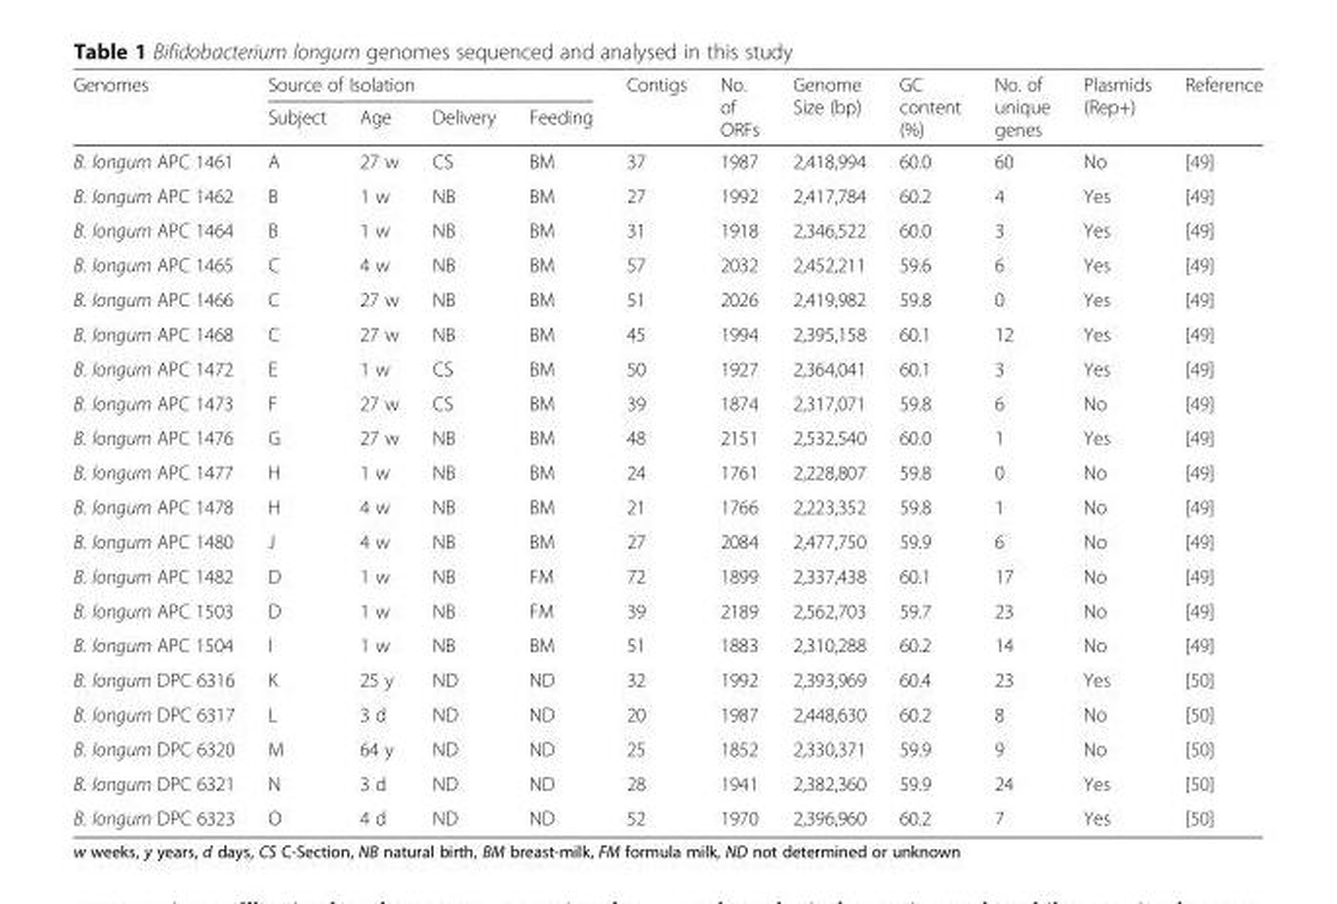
<table><thead><tr><td rowspan="2">Genomes</td><td colspan="4">Source of Isolation</td><td rowspan="2">Contigs</td><td rowspan="2">No. of ORFs</td><td rowspan="2">Genome Size (bp)</td><td rowspan="2">GC content (%)</td><td rowspan="2">No. of unique genes</td><td rowspan="2">Plasmids (Rep+)</td><td rowspan="2">Reference</td></tr><tr><td>Subject</td><td>Age</td><td>Delivery</td><td>Feeding</td></tr></thead><tbody><tr><td>B. longum APC 1461</td><td>A</td><td>27 w</td><td>CS</td><td>BM</td><td>37</td><td>1987</td><td>2,418,994</td><td>60.0</td><td>60</td><td>No</td><td>[49]</td></tr><tr><td>B. longum APC 1462</td><td>B</td><td>1 w</td><td>NB</td><td>BM</td><td>27</td><td>1992</td><td>2,417,784</td><td>60.2</td><td>4</td><td>Yes</td><td>[49]</td></tr><tr><td>B. longum APC 1464</td><td>B</td><td>1 w</td><td>NB</td><td>BM</td><td>31</td><td>1918</td><td>2,346,522</td><td>60.0</td><td>3</td><td>Yes</td><td>[49]</td></tr><tr><td>B. longum APC 1465</td><td>C</td><td>4 w</td><td>NB</td><td>BM</td><td>57</td><td>2032</td><td>2,452,211</td><td>59.6</td><td>6</td><td>Yes</td><td>[49]</td></tr><tr><td>B. longum APC 1466</td><td>C</td><td>27 w</td><td>NB</td><td>BM</td><td>51</td><td>2026</td><td>2,419,982</td><td>59.8</td><td>0</td><td>Yes</td><td>[49]</td></tr><tr><td>B. longum APC 1468</td><td>C</td><td>27 w</td><td>NB</td><td>BM</td><td>45</td><td>1994</td><td>2,395,158</td><td>60.1</td><td>12</td><td>Yes</td><td>[49]</td></tr><tr><td>B. longum APC 1472</td><td>E</td><td>1 w</td><td>CS</td><td>BM</td><td>50</td><td>1927</td><td>2,364,041</td><td>60.1</td><td>3</td><td>Yes</td><td>[49]</td></tr><tr><td>B. longum APC 1473</td><td>F</td><td>27 w</td><td>CS</td><td>BM</td><td>39</td><td>1874</td><td>2,317,071</td><td>59.8</td><td>6</td><td>No</td><td>[49]</td></tr><tr><td>B. longum APC 1476</td><td>G</td><td>27 w</td><td>NB</td><td>BM</td><td>48</td><td>2151</td><td>2,532,540</td><td>60.0</td><td>1</td><td>Yes</td><td>[49]</td></tr><tr><td>B. longum APC 1477</td><td>H</td><td>1 w</td><td>NB</td><td>BM</td><td>24</td><td>1761</td><td>2,228,807</td><td>59.8</td><td>0</td><td>No</td><td>[49]</td></tr><tr><td>B. longum APC 1478</td><td>H</td><td>4 w</td><td>NB</td><td>BM</td><td>21</td><td>1766</td><td>2,223,352</td><td>59.8</td><td>1</td><td>No</td><td>[49]</td></tr><tr><td>B. longum APC 1480</td><td>J</td><td>4 w</td><td>NB</td><td>BM</td><td>27</td><td>2084</td><td>2,477,750</td><td>59.9</td><td>6</td><td>No</td><td>[49]</td></tr><tr><td>B. longum APC 1482</td><td>D</td><td>1 w</td><td>NB</td><td>FM</td><td>72</td><td>1899</td><td>2,337,438</td><td>60.1</td><td>17</td><td>No</td><td>[49]</td></tr><tr><td>B. longum APC 1503</td><td>D</td><td>1 w</td><td>NB</td><td>FM</td><td>39</td><td>2189</td><td>2,562,703</td><td>59.7</td><td>23</td><td>No</td><td>[49]</td></tr><tr><td>B. longum APC 1504</td><td>I</td><td>1 w</td><td>NB</td><td>BM</td><td>51</td><td>1883</td><td>2,310,288</td><td>60.2</td><td>14</td><td>No</td><td>[49]</td></tr><tr><td>B. longum DPC 6316</td><td>K</td><td>25 y</td><td>ND</td><td>ND</td><td>32</td><td>1992</td><td>2,393,969</td><td>60.4</td><td>23</td><td>Yes</td><td>[50]</td></tr><tr><td>B. longum DPC 6317</td><td>L</td><td>3 d</td><td>ND</td><td>ND</td><td>20</td><td>1987</td><td>2,448,630</td><td>60.2</td><td>8</td><td>No</td><td>[50]</td></tr><tr><td>B. longum DPC 6320</td><td>M</td><td>64 y</td><td>ND</td><td>ND</td><td>25</td><td>1852</td><td>2,330,371</td><td>59.9</td><td>9</td><td>No</td><td>[50]</td></tr><tr><td>B. longum DPC 6321</td><td>N</td><td>3 d</td><td>ND</td><td>ND</td><td>28</td><td>1941</td><td>2,382,360</td><td>59.9</td><td>24</td><td>Yes</td><td>[50]</td></tr><tr><td>B. longum DPC 6323</td><td>O</td><td>4 d</td><td>ND</td><td>ND</td><td>52</td><td>1970</td><td>2,396,960</td><td>60.2</td><td>7</td><td>Yes</td><td>[50]</td></tr></tbody></table>